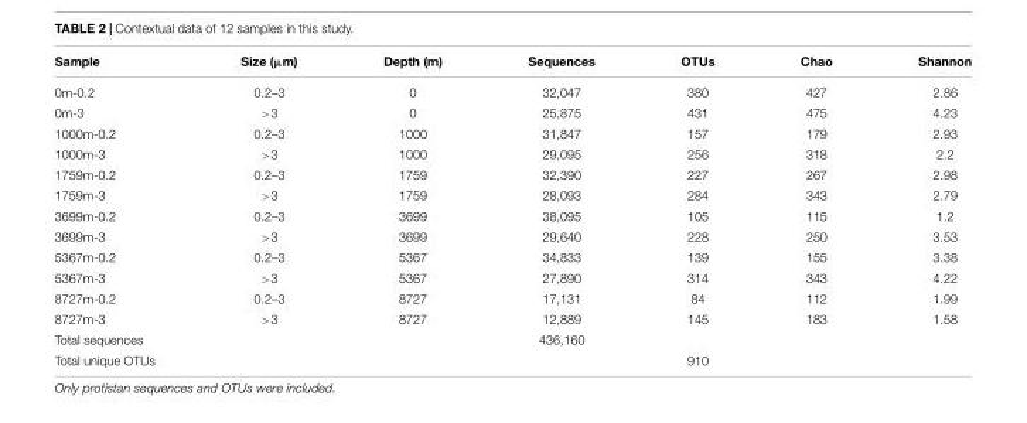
<table><thead><tr><td>Sample</td><td>Size (µm)</td><td>Depth (m)</td><td>Sequences</td><td>OTUs</td><td>Chao</td><td>Shannon</td></tr></thead><tbody><tr><td>0m-0.2</td><td>0.2–3</td><td>0</td><td>32,047</td><td>380</td><td>427</td><td>2.86</td></tr><tr><td>0m-3</td><td>&gt;3</td><td>0</td><td>25,875</td><td>431</td><td>475</td><td>4.23</td></tr><tr><td>1000m-0.2</td><td>0.2–3</td><td>1000</td><td>31,847</td><td>157</td><td>179</td><td>2.93</td></tr><tr><td>1000m-3</td><td>&gt;3</td><td>1000</td><td>29,095</td><td>256</td><td>318</td><td>2.2</td></tr><tr><td>1759m-0.2</td><td>0.2–3</td><td>1759</td><td>32,390</td><td>227</td><td>267</td><td>2.98</td></tr><tr><td>1759m-3</td><td>&gt;3</td><td>1759</td><td>28,093</td><td>284</td><td>343</td><td>2.79</td></tr><tr><td>3699m-0.2</td><td>0.2–3</td><td>3699</td><td>38,095</td><td>105</td><td>115</td><td>1.2</td></tr><tr><td>3699m-3</td><td>&gt;3</td><td>3699</td><td>29,640</td><td>228</td><td>250</td><td>3.53</td></tr><tr><td>5367m-0.2</td><td>0.2–3</td><td>5367</td><td>34,833</td><td>139</td><td>155</td><td>3.38</td></tr><tr><td>5367m-3</td><td>&gt;3</td><td>5367</td><td>27,890</td><td>314</td><td>343</td><td>4.22</td></tr><tr><td>8727m-0.2</td><td>0.2–3</td><td>8727</td><td>17,131</td><td>84</td><td>112</td><td>1.99</td></tr><tr><td>8727m-3</td><td>&gt;3</td><td>8727</td><td>12,889</td><td>145</td><td>183</td><td>1.58</td></tr><tr><td>Total sequences</td><td></td><td></td><td>436,160</td><td></td><td></td><td></td></tr><tr><td>Total unique OTUs</td><td></td><td></td><td></td><td>910</td><td></td><td></td></tr></tbody></table>